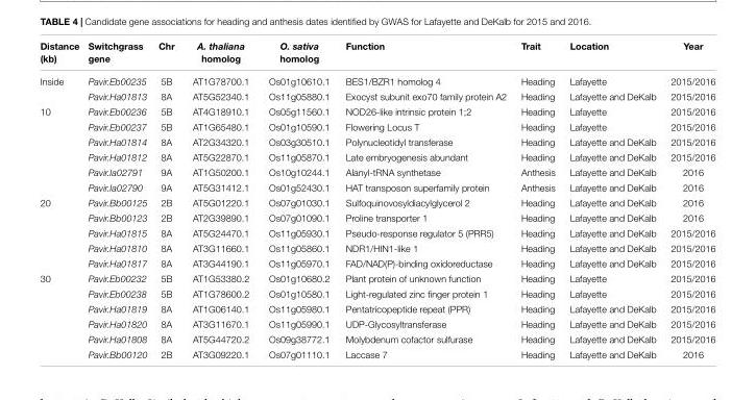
<table><thead><tr><td>Distance (kb)</td><td>Switchgrass gene</td><td>Chr</td><td>A. thaliana homolog</td><td>O. sativa homolog</td><td>Function</td><td>Trait</td><td>Location</td><td>Year</td></tr></thead><tbody><tr><td rowspan="2">Inside</td><td>Pavir.Eb00235</td><td>5B</td><td>AT1G78700.1</td><td>Os01g10610.1</td><td>BES1/BZR1 homolog 4</td><td>Heading</td><td>Lafayette</td><td>2015/2016</td></tr><tr><td>Pavir.Ha01813</td><td>8A</td><td>AT5G52340.1</td><td>Os11g05880.1</td><td>Exocyst subunit exo70 family protein A2</td><td>Heading</td><td>Lafayette and DeKalb</td><td>2015/2016</td></tr><tr><td rowspan="6">10</td><td>Pavir.Eb00236</td><td>5B</td><td>AT4G18910.1</td><td>Os05g11560.1</td><td>NOD26-like intrinsic protein 1;2</td><td>Heading</td><td>Lafayette</td><td>2015/2016</td></tr><tr><td>Pavir.Eb00237</td><td>5B</td><td>AT1G65480.1</td><td>Os01g10590.1</td><td>Flowering Locus T</td><td>Heading</td><td>Lafayette</td><td>2015/2016</td></tr><tr><td>Pavir.Ha01814</td><td>8A</td><td>AT2G34320.1</td><td>Os03g30510.1</td><td>Polynucleotidyl transferase</td><td>Heading</td><td>Lafayette and DeKalb</td><td>2015/2016</td></tr><tr><td>Pavir.Ha01812</td><td>8A</td><td>AT5G22870.1</td><td>Os11g05870.1</td><td>Late embryogenesis abundant</td><td>Heading</td><td>Lafayette and DeKalb</td><td>2015/2016</td></tr><tr><td>Pavir.Ia02791</td><td>9A</td><td>AT1G50200.1</td><td>Os10g10244.1</td><td>Alanyl-tRNA synthetase</td><td>Anthesis</td><td>Lafayette and DeKalb</td><td>2016</td></tr><tr><td>Pavir.Ia02790</td><td>9A</td><td>AT5G31412.1</td><td>Os01g52430.1</td><td>HAT transposon superfamily protein</td><td>Anthesis</td><td>Lafayette and DeKalb</td><td>2016</td></tr><tr><td rowspan="5">20</td><td>Pavir.Bb00125</td><td>2B</td><td>AT5G01220.1</td><td>Os07g01030.1</td><td>Sulfoquinovosyldiacylglycerol 2</td><td>Heading</td><td>Lafayette and DeKalb</td><td>2016</td></tr><tr><td>Pavir.Bb00123</td><td>2B</td><td>AT2G39890.1</td><td>Os07g01090.1</td><td>Proline transporter 1</td><td>Heading</td><td>Lafayette and DeKalb</td><td>2016</td></tr><tr><td>Pavir.Ha01815</td><td>8A</td><td>AT5G24470.1</td><td>Os11g05930.1</td><td>Pseudo-response regulator 5 (PRR5)</td><td>Heading</td><td>Lafayette and DeKalb</td><td>2015/2016</td></tr><tr><td>Pavir.Ha01810</td><td>8A</td><td>AT3G11660.1</td><td>Os11g05860.1</td><td>NDR1/HIN1-like 1</td><td>Heading</td><td>Lafayette and DeKalb</td><td>2015/2016</td></tr><tr><td>Pavir.Ha01817</td><td>8A</td><td>AT3G44190.1</td><td>Os11g05970.1</td><td>FAD/NAD(P)-binding oxidoreductase</td><td>Heading</td><td>Lafayette and DeKalb</td><td>2015/2016</td></tr><tr><td rowspan="6">30</td><td>Pavir.Eb00232</td><td>5B</td><td>AT1G53380.2</td><td>Os01g10680.2</td><td>Plant protein of unknown function</td><td>Heading</td><td>Lafayette</td><td>2015/2016</td></tr><tr><td>Pavir.Eb00238</td><td>5B</td><td>AT1G78600.2</td><td>Os01g10580.1</td><td>Light-regulated zinc finger protein 1</td><td>Heading</td><td>Lafayette</td><td>2015/2016</td></tr><tr><td>Pavir.Ha01819</td><td>8A</td><td>AT1G06140.1</td><td>Os11g05980.1</td><td>Pentatricopeptide repeat (PPR)</td><td>Heading</td><td>Lafayette and DeKalb</td><td>2015/2016</td></tr><tr><td>Pavir.Ha01820</td><td>8A</td><td>AT3G11670.1</td><td>Os11g05990.1</td><td>UDP-Glycosyltransferase</td><td>Heading</td><td>Lafayette and DeKalb</td><td>2015/2016</td></tr><tr><td>Pavir.Ha01808</td><td>8A</td><td>AT5G44720.2</td><td>Os09g38772.1</td><td>Molybdenum cofactor sulfurase</td><td>Heading</td><td>Lafayette and DeKalb</td><td>2015/2016</td></tr><tr><td>Pavir.Bb00120</td><td>2B</td><td>AT3G09220.1</td><td>Os07g01110.1</td><td>Laccase 7</td><td>Heading</td><td>Lafayette and DeKalb</td><td>2016</td></tr></tbody></table>